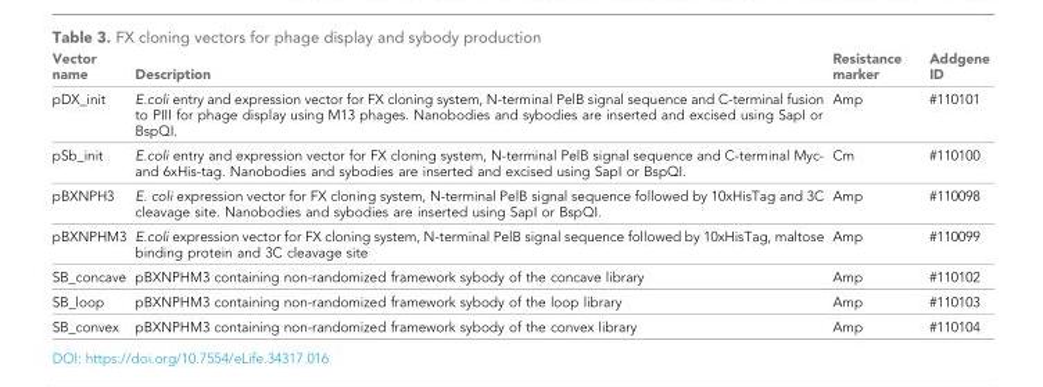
<table><thead><tr><td>Vector name</td><td>Description</td><td>Resistance marker</td><td>Addgene ID</td></tr></thead><tbody><tr><td>pDX_init</td><td>E.coli entry and expression vector for FX cloning system, N-terminal PelB signal sequence and C-terminal fusion to PIII for phage display using M13 phages. Nanobodies and sybodies are inserted and excised using SapI or BspQI.</td><td>Amp</td><td>#110101</td></tr><tr><td>pSb_init</td><td>E.coli entry and expression vector for FX cloning system, N-terminal PelB signal sequence and C-terminal Myc- and 6xHis-tag. Nanobodies and sybodies are inserted and excised using SapI or BspQI.</td><td>Cm</td><td>#110100</td></tr><tr><td>pBXNPH3</td><td>E. coli expression vector for FX cloning system, N-terminal PelB signal sequence followed by 10xHisTag and 3C cleavage site. Nanobodies and sybodies are inserted using SapI or BspQI.</td><td>Amp</td><td>#110098</td></tr><tr><td>pBXNPHM3</td><td>E.coli expression vector for FX cloning system, N-terminal PelB signal sequence followed by 10xHisTag, maltose binding protein and 3C cleavage site</td><td>Amp</td><td>#110099</td></tr><tr><td>SB_concave</td><td>pBXNPHM3 containing non-randomized framework sybody of the concave library</td><td>Amp</td><td>#110102</td></tr><tr><td>SB_loop</td><td>pBXNPHM3 containing non-randomized framework sybody of the loop library</td><td>Amp</td><td>#110103</td></tr><tr><td>SB_convex</td><td>pBXNPHM3 containing non-randomized framework sybody of the convex library</td><td>Amp</td><td>#110104</td></tr></tbody></table>